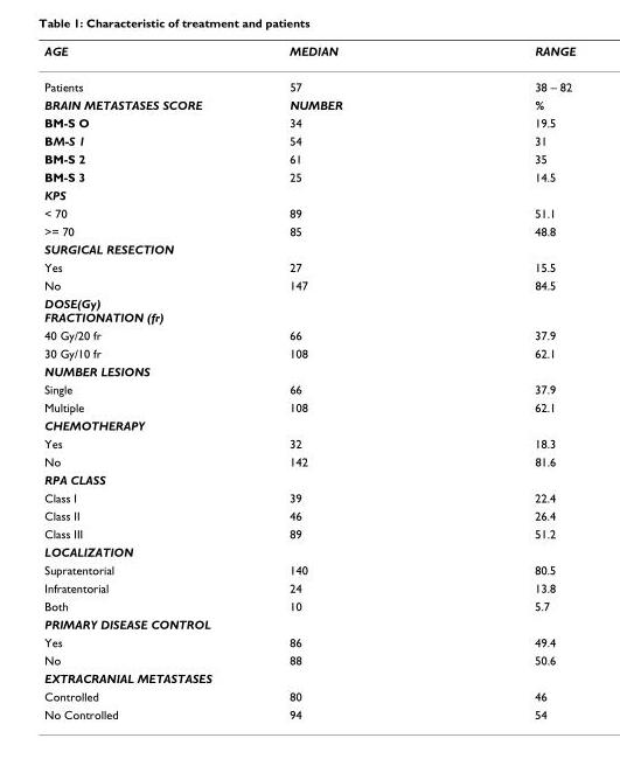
<table><thead><tr><td>AGE</td><td>MEDIAN</td><td>RANGE</td></tr></thead><tbody><tr><td>Patients</td><td>57</td><td>38 – 82</td></tr><tr><td>BRAIN METASTASES SCORE</td><td>NUMBER</td><td>%</td></tr><tr><td>BM-S O</td><td>34</td><td>19.5</td></tr><tr><td>BM-S 1</td><td>54</td><td>31</td></tr><tr><td>BM-S 2</td><td>61</td><td>35</td></tr><tr><td>BM-S 3</td><td>25</td><td>14.5</td></tr><tr><td colspan="3">KPS</td></tr><tr><td>&lt; 70</td><td>89</td><td>51.1</td></tr><tr><td>&gt;= 70</td><td>85</td><td>48.8</td></tr><tr><td colspan="3">SURGICAL RESECTION</td></tr><tr><td>Yes</td><td>27</td><td>15.5</td></tr><tr><td>No</td><td>147</td><td>84.5</td></tr><tr><td colspan="3">DOSE(Gy) FRACTIONATION (fr)</td></tr><tr><td>40 Gy/20 fr</td><td>66</td><td>37.9</td></tr><tr><td>30 Gy/10 fr</td><td>108</td><td>62.1</td></tr><tr><td colspan="3">NUMBER LESIONS</td></tr><tr><td>Single</td><td>66</td><td>37.9</td></tr><tr><td>Multiple</td><td>108</td><td>62.1</td></tr><tr><td colspan="3">CHEMOTHERAPY</td></tr><tr><td>Yes</td><td>32</td><td>18.3</td></tr><tr><td>No</td><td>142</td><td>81.6</td></tr><tr><td colspan="3">RPA CLASS</td></tr><tr><td>Class I</td><td>39</td><td>22.4</td></tr><tr><td>Class II</td><td>46</td><td>26.4</td></tr><tr><td>Class III</td><td>89</td><td>51.2</td></tr><tr><td colspan="3">LOCALIZATION</td></tr><tr><td>Supratentorial</td><td>140</td><td>80.5</td></tr><tr><td>Infratentorial</td><td>24</td><td>13.8</td></tr><tr><td>Both</td><td>10</td><td>5.7</td></tr><tr><td colspan="3">PRIMARY DISEASE CONTROL</td></tr><tr><td>Yes</td><td>86</td><td>49.4</td></tr><tr><td>No</td><td>88</td><td>50.6</td></tr><tr><td colspan="3">EXTRACRANIAL METASTASES</td></tr><tr><td>Controlled</td><td>80</td><td>46</td></tr><tr><td>No Controlled</td><td>94</td><td>54</td></tr></tbody></table>